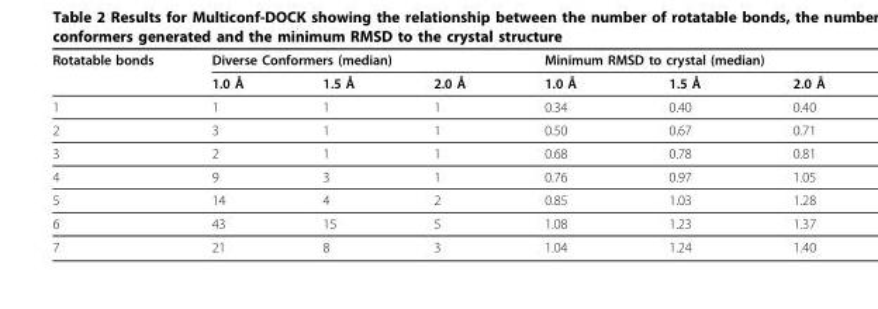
<table><thead><tr><td rowspan="2">Rotatable bonds</td><td colspan="3">Diverse Conformers (median)</td><td colspan="3">Minimum RMSD to crystal (median)</td></tr><tr><td>1.0 Å</td><td>1.5 Å</td><td>2.0 Å</td><td>1.0 Å</td><td>1.5 Å</td><td>2.0 Å</td></tr></thead><tbody><tr><td>1</td><td>1</td><td>1</td><td>1</td><td>0.34</td><td>0.40</td><td>0.40</td></tr><tr><td>2</td><td>3</td><td>1</td><td>1</td><td>0.50</td><td>0.67</td><td>0.71</td></tr><tr><td>3</td><td>2</td><td>1</td><td>1</td><td>0.68</td><td>0.78</td><td>0.81</td></tr><tr><td>4</td><td>9</td><td>3</td><td>1</td><td>0.76</td><td>0.97</td><td>1.05</td></tr><tr><td>5</td><td>14</td><td>4</td><td>2</td><td>0.85</td><td>1.03</td><td>1.28</td></tr><tr><td>6</td><td>43</td><td>15</td><td>5</td><td>1.08</td><td>1.23</td><td>1.37</td></tr><tr><td>7</td><td>21</td><td>8</td><td>3</td><td>1.04</td><td>1.24</td><td>1.40</td></tr></tbody></table>